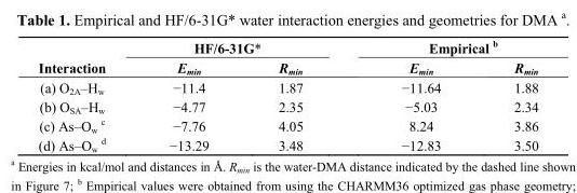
<table><thead><tr><td rowspan="2">Interaction</td><td colspan="2">HF/6-31G*</td><td colspan="2">Empirical b</td></tr><tr><td>E<sub>min</sub></td><td>R<sub>min</sub></td><td>E<sub>min</sub></td><td>R<sub>min</sub></td></tr></thead><tbody><tr><td>(a) O<sub>2A</sub>–H<sub>w</sub></td><td>−11.4</td><td>1.87</td><td>−11.64</td><td>1.88</td></tr><tr><td>(b) O<sub>SA</sub>–H<sub>w</sub></td><td>−4.77</td><td>2.35</td><td>−5.03</td><td>2.34</td></tr><tr><td>(c) As–O<sub>w</sub> <sup>c</sup></td><td>−7.76</td><td>4.05</td><td>8.24</td><td>3.86</td></tr><tr><td>(d) As–O<sub>w</sub> <sup>d</sup></td><td>−13.29</td><td>3.48</td><td>−12.83</td><td>3.50</td></tr></tbody></table>